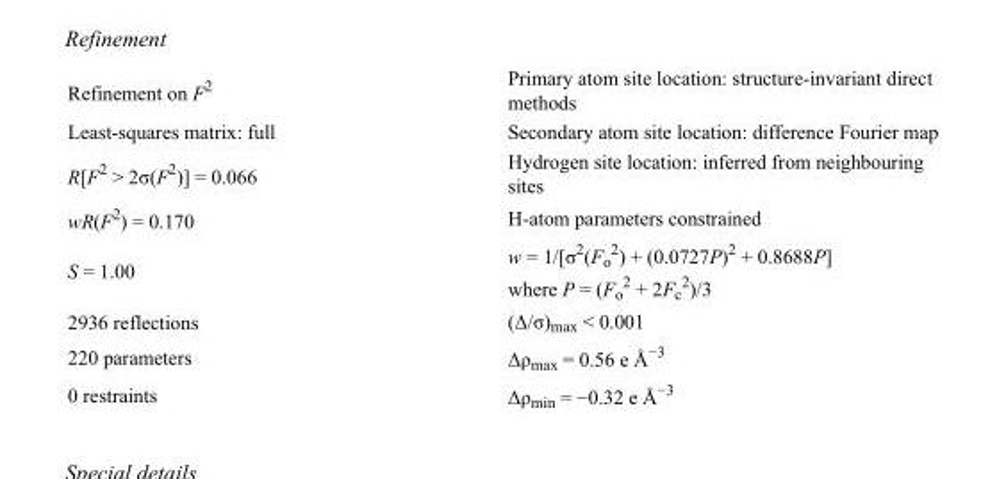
<table><tbody><tr><td>Refinement on F<sup>2</sup></td><td>Primary atom site location: structure-invariant direct methods</td></tr><tr><td>Least-squares matrix: full</td><td>Secondary atom site location: difference Fourier map</td></tr><tr><td>R[F<sup>2</sup> &gt; 2σ(F<sup>2</sup>)] = 0.066</td><td>Hydrogen site location: inferred from neighbouring sites</td></tr><tr><td>wR(F<sup>2</sup>) = 0.170</td><td>H-atom parameters constrained</td></tr><tr><td>S = 1.00</td><td>w = 1/[σ<sup>2</sup>(F<sub>o</sub> <sup>2</sup>) + (0.0727P)<sup>2</sup> + 0.8688P] where P = (F<sub>o</sub> <sup>2</sup> + 2F<sub>c</sub> <sup>2</sup>)/3</td></tr><tr><td>2936 reflections</td><td>(Δ/σ)<sub>max</sub> &lt; 0.001</td></tr><tr><td>220 parameters</td><td>Δρ<sub>max</sub> = 0.56 e Å<sup>−3</sup></td></tr><tr><td>0 restraints</td><td>Δρ<sub>min</sub> = −0.32 e Å<sup>−3</sup></td></tr></tbody></table>